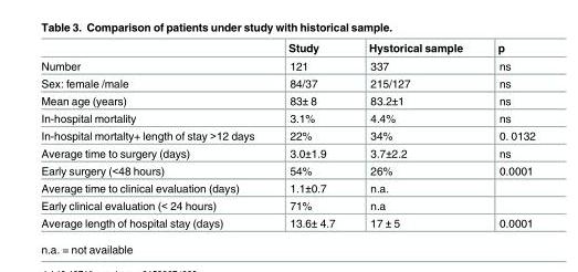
<table><thead><tr><td></td><td>Study</td><td>Hystorical sample</td><td>p</td></tr></thead><tbody><tr><td>Number</td><td>121</td><td>337</td><td>ns</td></tr><tr><td>Sex: female /male</td><td>84/37</td><td>215/127</td><td>ns</td></tr><tr><td>Mean age (years)</td><td>83± 8</td><td>83.2±1</td><td>ns</td></tr><tr><td>In-hospital mortality</td><td>3.1%</td><td>4.4%</td><td>ns</td></tr><tr><td>In-hospital mortalty+ length of stay &gt;12 days</td><td>22%</td><td>34%</td><td>0. 0132</td></tr><tr><td>Average time to surgery (days)</td><td>3.0±1.9</td><td>3.7±2.2</td><td>ns</td></tr><tr><td>Early surgery (&lt;48 hours)</td><td>54%</td><td>26%</td><td>0.0001</td></tr><tr><td>Average time to clinical evaluation (days)</td><td>1.1±0.7</td><td>n.a.</td><td></td></tr><tr><td>Early clinical evaluation (&lt; 24 hours)</td><td>71%</td><td>n.a</td><td></td></tr><tr><td>Average length of hospital stay (days)</td><td>13.6± 4.7</td><td>17 ± 5</td><td>0.0001</td></tr></tbody></table>